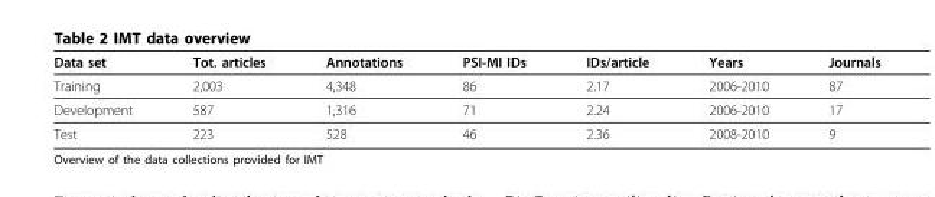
<table><thead><tr><td>Data set</td><td>Tot. articles</td><td>Annotations</td><td>PSI-MI IDs</td><td>IDs/article</td><td>Years</td><td>Journals</td></tr></thead><tbody><tr><td>Training</td><td>2,003</td><td>4,348</td><td>86</td><td>2.17</td><td>2006-2010</td><td>87</td></tr><tr><td>Development</td><td>587</td><td>1,316</td><td>71</td><td>2.24</td><td>2006-2010</td><td>17</td></tr><tr><td>Test</td><td>223</td><td>528</td><td>46</td><td>2.36</td><td>2008-2010</td><td>9</td></tr></tbody></table>